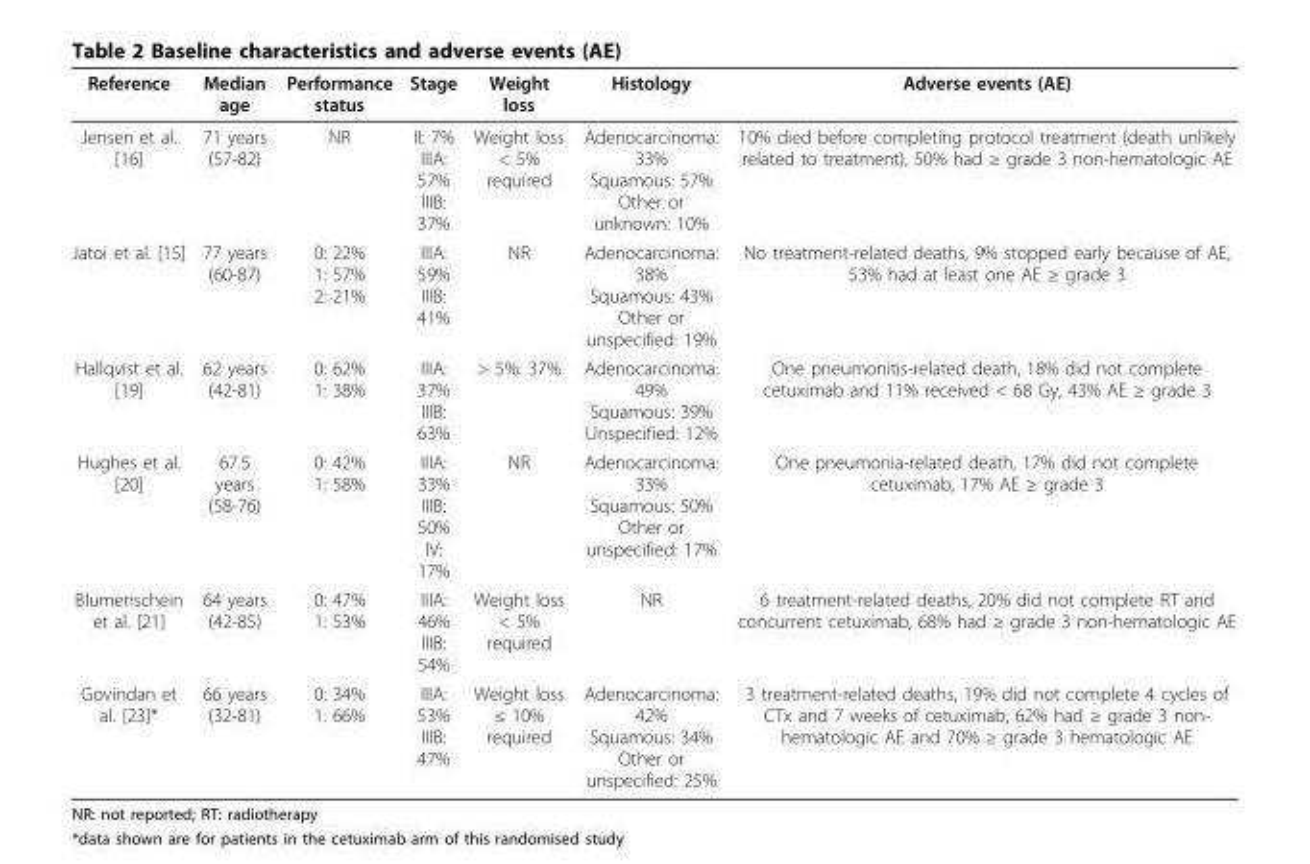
<table><thead><tr><td>Reference</td><td>Median age</td><td>Performance status</td><td>Stage</td><td>Weight loss</td><td>Histology</td><td>Adverse events (AE)</td></tr></thead><tbody><tr><td>Jensen et al. [16]</td><td>71 years (57-82)</td><td>NR</td><td>II: 7% IIIA: 57% IIIB: 37%</td><td>Weight loss &lt; 5% required</td><td>Adenocarcinoma: 33% Squamous: 57% Other or unknown: 10%</td><td>10% died before completing protocol treatment (death unlikely related to treatment), 50% had ≥ grade 3 non-hematologic AE</td></tr><tr><td>Jatoi et al. [15]</td><td>77 years (60-87)</td><td>0: 22% 1: 57% 2: 21%</td><td>IIIA: 59% IIIB: 41%</td><td>NR</td><td>Adenocarcinoma: 38% Squamous: 43% Other or unspecified: 19%</td><td>No treatment-related deaths, 9% stopped early because of AE, 53% had at least one AE ≥ grade 3</td></tr><tr><td>Hallqvist et al. [19]</td><td>62 years (42-81)</td><td>0: 62% 1: 38%</td><td>IIIA: 37% IIIB: 63%</td><td>&gt; 5%: 37%</td><td>Adenocarcinoma: 49% Squamous: 39% Unspecified: 12%</td><td>One pneumonitis-related death, 18% did not complete cetuximab and 11% received &lt; 68 Gy, 43% AE ≥ grade 3</td></tr><tr><td>Hughes et al. [20]</td><td>67.5 years (58-76)</td><td>0: 42% 1: 58%</td><td>IIIA: 33% IIIB: 50% IV: 17%</td><td>NR</td><td>Adenocarcinoma: 33% Squamous: 50% Other or unspecified: 17%</td><td>One pneumonia-related death, 17% did not complete cetuximab, 17% AE ≥ grade 3</td></tr><tr><td>Blumenschein et al. [21]</td><td>64 years (42-85)</td><td>0: 47% 1: 53%</td><td>IIIA: 46% IIIB: 54%</td><td>Weight loss &lt; 5% required</td><td>NR</td><td>6 treatment-related deaths, 20% did not complete RT and concurrent cetuximab, 68% had ≥ grade 3 non-hematologic AE</td></tr><tr><td>Govindan et al. [23]*</td><td>66 years (32-81)</td><td>0: 34% 1: 66%</td><td>IIIA: 53% IIIB: 47%</td><td>Weight loss ≤ 10% required</td><td>Adenocarcinoma: 42% Squamous: 34% Other or unspecified: 25%</td><td>3 treatment-related deaths, 19% did not complete 4 cycles of CTx and 7 weeks of cetuximab, 62% had ≥ grade 3 non- hematologic AE and 70% ≥ grade 3 hematologic AE</td></tr></tbody></table>